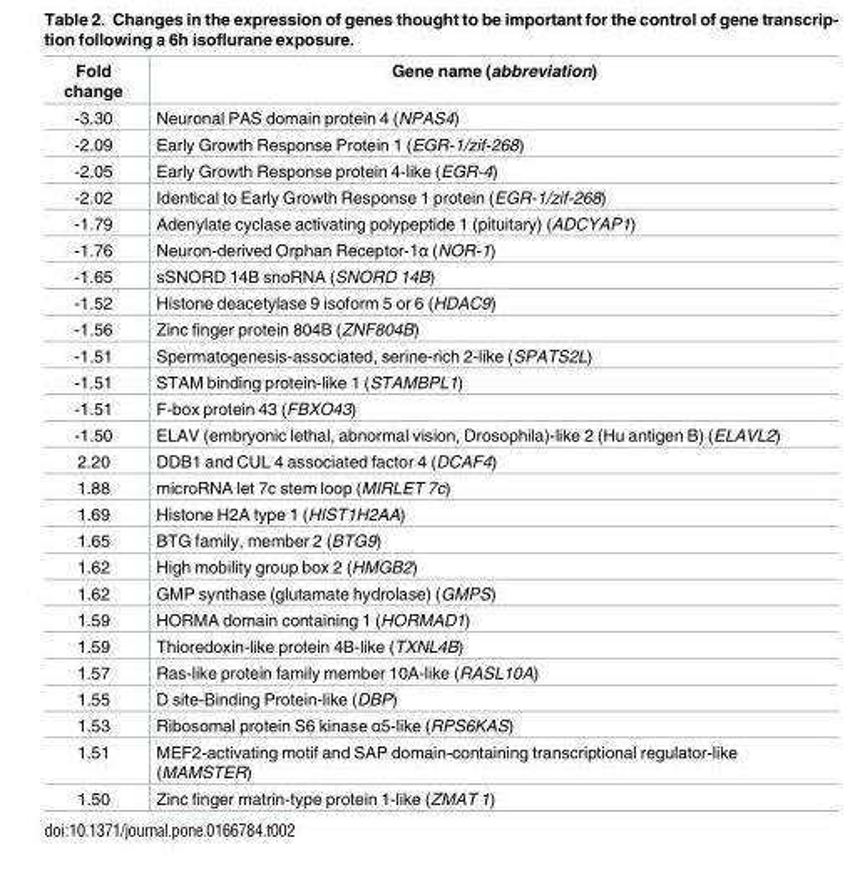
<table><thead><tr><td>Fold change</td><td>Gene name (abbreviation)</td></tr></thead><tbody><tr><td>-3.30</td><td>Neuronal PAS domain protein 4 (NPAS4)</td></tr><tr><td>-2.09</td><td>Early Growth Response Protein 1 (EGR-1/zif-268)</td></tr><tr><td>-2.05</td><td>Early Growth Response protein 4-like (EGR-4)</td></tr><tr><td>-2.02</td><td>Identical to Early Growth Response 1 protein (EGR-1/zif-268)</td></tr><tr><td>-1.79</td><td>Adenylate cyclase activating polypeptide 1 (pituitary) (ADCYAP1)</td></tr><tr><td>-1.76</td><td>Neuron-derived Orphan Receptor-1α (NOR-1)</td></tr><tr><td>-1.65</td><td>sSNORD 14B snoRNA (SNORD 14B)</td></tr><tr><td>-1.52</td><td>Histone deacetylase 9 isoform 5 or 6 (HDAC9)</td></tr><tr><td>-1.56</td><td>Zinc finger protein 804B (ZNF804B)</td></tr><tr><td>-1.51</td><td>Spermatogenesis-associated, serine-rich 2-like (SPATS2L)</td></tr><tr><td>-1.51</td><td>STAM binding protein-like 1 (STAMBPL1)</td></tr><tr><td>-1.51</td><td>F-box protein 43 (FBXO43)</td></tr><tr><td>-1.50</td><td>ELAV (embryonic lethal, abnormal vision, Drosophila)-like 2 (Hu antigen B) (ELAVL2)</td></tr><tr><td>2.20</td><td>DDB1 and CUL 4 associated factor 4 (DCAF4)</td></tr><tr><td>1.88</td><td>microRNA let 7c stem loop (MIRLET 7c)</td></tr><tr><td>1.69</td><td>Histone H2A type 1 (HIST1H2AA)</td></tr><tr><td>1.65</td><td>BTG family, member 2 (BTG9)</td></tr><tr><td>1.62</td><td>High mobility group box 2 (HMGB2)</td></tr><tr><td>1.62</td><td>GMP synthase (glutamate hydrolase) (GMPS)</td></tr><tr><td>1.59</td><td>HORMA domain containing 1 (HORMAD1)</td></tr><tr><td>1.59</td><td>Thioredoxin-like protein 4B-like (TXNL4B)</td></tr><tr><td>1.57</td><td>Ras-like protein family member 10A-like (RASL10A)</td></tr><tr><td>1.55</td><td>D site-Binding Protein-like (DBP)</td></tr><tr><td>1.53</td><td>Ribosomal protein S6 kinase α5-like (RPS6KAS)</td></tr><tr><td>1.51</td><td>MEF2-activating motif and SAP domain-containing transcriptional regulator-like (MAMSTER)</td></tr><tr><td>1.50</td><td>Zinc finger matrin-type protein 1-like (ZMAT 1)</td></tr></tbody></table>